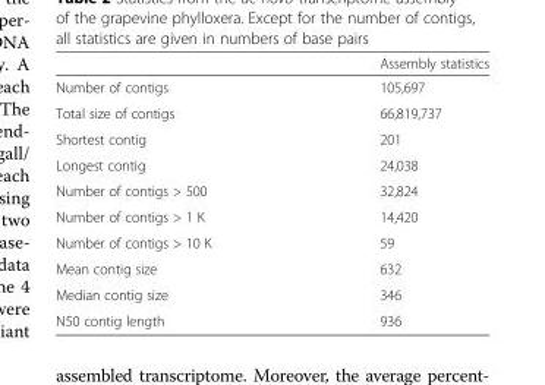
<table><thead><tr><td></td><td>Assembly statistics</td></tr></thead><tbody><tr><td>Number of contigs</td><td>105,697</td></tr><tr><td>Total size of contigs</td><td>66,819,737</td></tr><tr><td>Shortest contig</td><td>201</td></tr><tr><td>Longest contig</td><td>24,038</td></tr><tr><td>Number of contigs &gt; 500</td><td>32,824</td></tr><tr><td>Number of contigs &gt; 1 K</td><td>14,420</td></tr><tr><td>Number of contigs &gt; 10 K</td><td>59</td></tr><tr><td>Mean contig size</td><td>632</td></tr><tr><td>Median contig size</td><td>346</td></tr><tr><td>N50 contig length</td><td>936</td></tr></tbody></table>